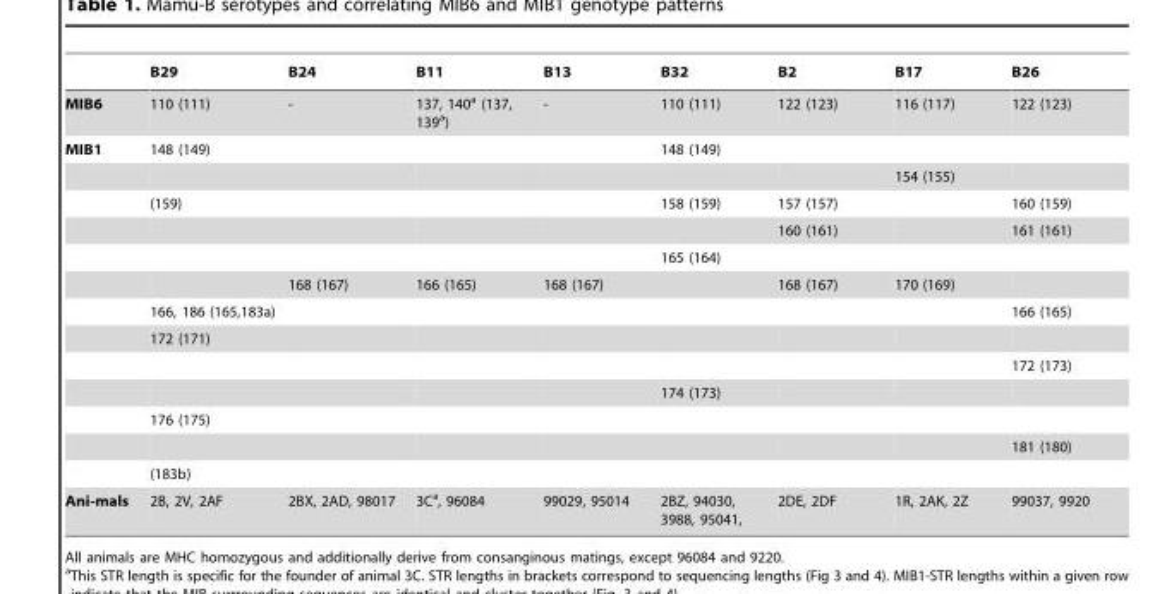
<table><thead><tr><td></td><td>B29</td><td>B24</td><td>B11</td><td>B13</td><td>B32</td><td>B2</td><td>B17</td><td>B26</td></tr></thead><tbody><tr><td>MIB6</td><td>110 (111)</td><td>-</td><td>137, 140<sup>a</sup> (137, 139<sup>a</sup>)</td><td>-</td><td>110 (111)</td><td>122 (123)</td><td>116 (117)</td><td>122 (123)</td></tr><tr><td rowspan="13">MIB1</td><td>148 (149)</td><td></td><td></td><td></td><td>148 (149)</td><td></td><td></td><td></td></tr><tr><td></td><td></td><td></td><td></td><td></td><td></td><td>154 (155)</td><td></td></tr><tr><td>(159)</td><td></td><td></td><td></td><td>158 (159)</td><td>157 (157)</td><td></td><td>160 (159)</td></tr><tr><td></td><td></td><td></td><td></td><td></td><td>160 (161)</td><td></td><td>161 (161)</td></tr><tr><td></td><td></td><td></td><td></td><td>165 (164)</td><td></td><td></td><td></td></tr><tr><td></td><td>168 (167)</td><td>166 (165)</td><td>168 (167)</td><td></td><td>168 (167)</td><td>170 (169)</td><td></td></tr><tr><td>166, 186 (165,183a)</td><td></td><td></td><td></td><td></td><td></td><td></td><td>166 (165)</td></tr><tr><td>172 (171)</td><td></td><td></td><td></td><td></td><td></td><td></td><td></td></tr><tr><td></td><td></td><td></td><td></td><td></td><td></td><td></td><td>172 (173)</td></tr><tr><td></td><td></td><td></td><td></td><td>174 (173)</td><td></td><td></td><td></td></tr><tr><td>176 (175)</td><td></td><td></td><td></td><td></td><td></td><td></td><td></td></tr><tr><td></td><td></td><td></td><td></td><td></td><td></td><td></td><td>181 (180)</td></tr><tr><td>(183b)</td><td></td><td></td><td></td><td></td><td></td><td></td><td></td></tr><tr><td>Ani-mals</td><td>2B, 2V, 2AF</td><td>2BX, 2AD, 98017</td><td>3C<sup>a</sup>, 96084</td><td>99029, 95014</td><td>2BZ, 94030, 3988, 95041,</td><td>2DE, 2DF</td><td>1R, 2AK, 2Z</td><td>99037, 9920</td></tr></tbody></table>